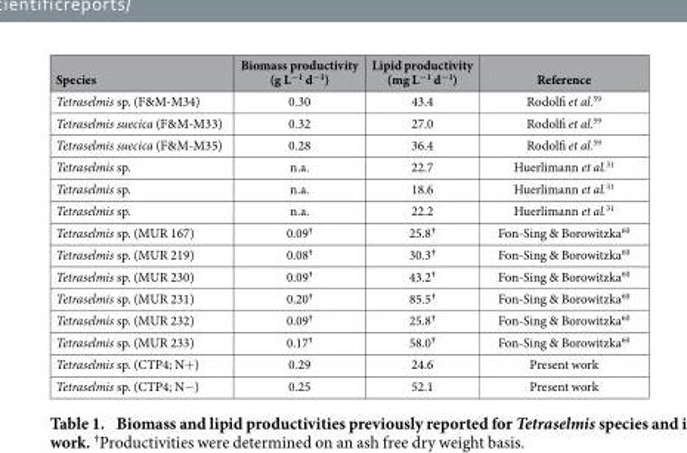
<table><thead><tr><td>Species</td><td>Biomass productivity (g L<sup>−1</sup> d<sup>−1</sup>)</td><td>Lipid productivity (mg L<sup>−1</sup> d<sup>−1</sup>)</td><td>Reference</td></tr></thead><tbody><tr><td>Tetraselmis sp. (F&amp;M-M34)</td><td>0.30</td><td>43.4</td><td>Rodolfi et al.<sup>59</sup></td></tr><tr><td>Tetraselmis suecica (F&amp;M-M33)</td><td>0.32</td><td>27.0</td><td>Rodolfi et al.<sup>59</sup></td></tr><tr><td>Tetraselmis suecica (F&amp;M-M35)</td><td>0.28</td><td>36.4</td><td>Rodolfi et al.<sup>59</sup></td></tr><tr><td>Tetraselmis sp.</td><td>n.a.</td><td>22.7</td><td>Huerlimann et al.<sup>31</sup></td></tr><tr><td>Tetraselmis sp.</td><td>n.a.</td><td>18.6</td><td>Huerlimann et al.<sup>31</sup></td></tr><tr><td>Tetraselmis sp.</td><td>n.a.</td><td>22.2</td><td>Huerlimann et al.<sup>31</sup></td></tr><tr><td>Tetraselmis sp. (MUR 167)</td><td>0.09†</td><td>25.8†</td><td>Fon-Sing &amp; Borowitzka<sup>60</sup></td></tr><tr><td>Tetraselmis sp. (MUR 219)</td><td>0.08†</td><td>30.3†</td><td>Fon-Sing &amp; Borowitzka<sup>60</sup></td></tr><tr><td>Tetraselmis sp. (MUR 230)</td><td>0.09†</td><td>43.2†</td><td>Fon-Sing &amp; Borowitzka<sup>60</sup></td></tr><tr><td>Tetraselmis sp. (MUR 231)</td><td>0.20†</td><td>85.5†</td><td>Fon-Sing &amp; Borowitzka<sup>60</sup></td></tr><tr><td>Tetraselmis sp. (MUR 232)</td><td>0.09†</td><td>25.8†</td><td>Fon-Sing &amp; Borowitzka<sup>60</sup></td></tr><tr><td>Tetraselmis sp. (MUR 233)</td><td>0.17†</td><td>58.0†</td><td>Fon-Sing &amp; Borowitzka<sup>60</sup></td></tr><tr><td>Tetraselmis sp. (CTP4; N+ )</td><td>0.29</td><td>24.6</td><td>Present work</td></tr><tr><td>Tetraselmis sp. (CTP4; N− )</td><td>0.25</td><td>52.1</td><td>Present work</td></tr></tbody></table>